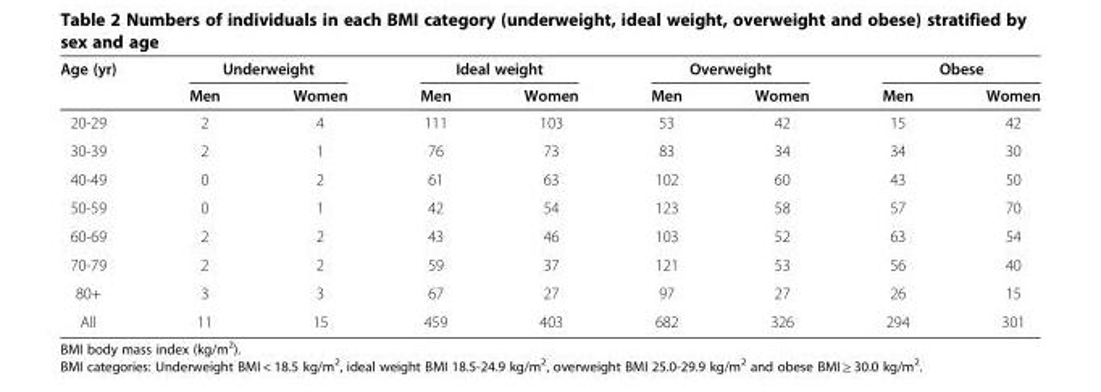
<table><thead><tr><td rowspan="2">Age (yr)</td><td colspan="2">Underweight</td><td colspan="2">Ideal weight</td><td colspan="2">Overweight</td><td colspan="2">Obese</td></tr><tr><td>Men</td><td>Women</td><td>Men</td><td>Women</td><td>Men</td><td>Women</td><td>Men</td><td>Women</td></tr></thead><tbody><tr><td>20-29</td><td>2</td><td>4</td><td>111</td><td>103</td><td>53</td><td>42</td><td>15</td><td>42</td></tr><tr><td>30-39</td><td>2</td><td>1</td><td>76</td><td>73</td><td>83</td><td>34</td><td>34</td><td>30</td></tr><tr><td>40-49</td><td>0</td><td>2</td><td>61</td><td>63</td><td>102</td><td>60</td><td>43</td><td>50</td></tr><tr><td>50-59</td><td>0</td><td>1</td><td>42</td><td>54</td><td>123</td><td>58</td><td>57</td><td>70</td></tr><tr><td>60-69</td><td>2</td><td>2</td><td>43</td><td>46</td><td>103</td><td>52</td><td>63</td><td>54</td></tr><tr><td>70-79</td><td>2</td><td>2</td><td>59</td><td>37</td><td>121</td><td>53</td><td>56</td><td>40</td></tr><tr><td>80+</td><td>3</td><td>3</td><td>67</td><td>27</td><td>97</td><td>27</td><td>26</td><td>15</td></tr><tr><td>All</td><td>11</td><td>15</td><td>459</td><td>403</td><td>682</td><td>326</td><td>294</td><td>301</td></tr></tbody></table>